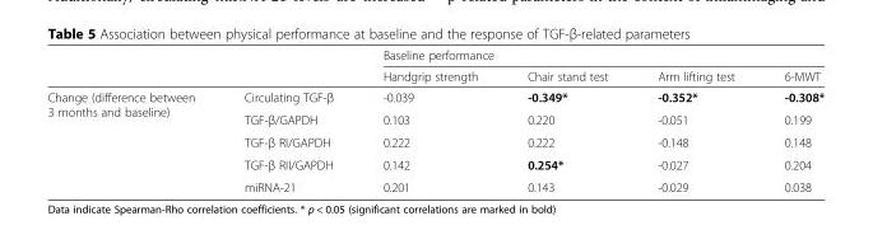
<table><thead><tr><td rowspan="2"></td><td rowspan="2"></td><td colspan="4">Baseline performance</td></tr><tr><td>Handgrip strength</td><td>Chair stand test</td><td>Arm lifting test</td><td>6-MWT</td></tr></thead><tbody><tr><td rowspan="5">Change (difference between 3 months and baseline)</td><td>Circulating TGF-β</td><td>-0.039</td><td>-0.349*</td><td>-0.352*</td><td>-0.308*</td></tr><tr><td>TGF-β/GAPDH</td><td>0.103</td><td>0.220</td><td>-0.051</td><td>0.199</td></tr><tr><td>TGF-β RI/GAPDH</td><td>0.222</td><td>0.222</td><td>-0.148</td><td>0.148</td></tr><tr><td>TGF-β RII/GAPDH</td><td>0.142</td><td>0.254*</td><td>-0.027</td><td>0.204</td></tr><tr><td>miRNA-21</td><td>0.201</td><td>0.143</td><td>-0.029</td><td>0.038</td></tr></tbody></table>